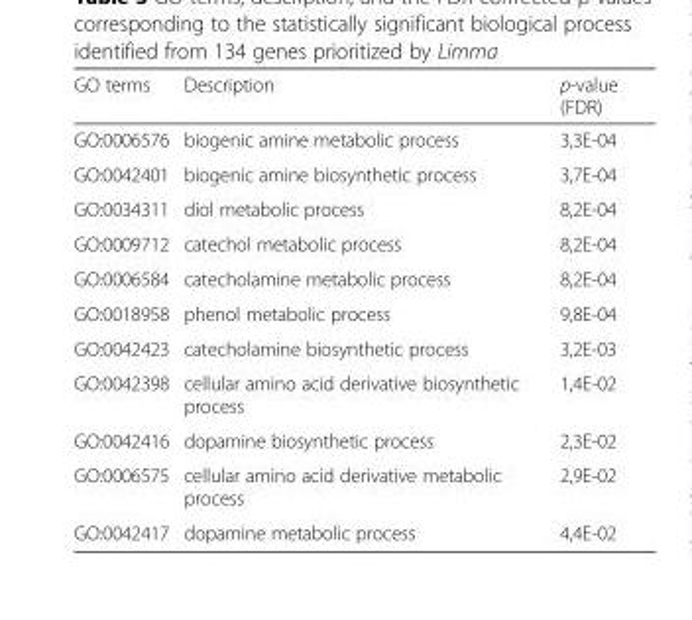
<table><thead><tr><td>GO terms</td><td>Description</td><td>p-value (FDR)</td></tr></thead><tbody><tr><td>GO:0006576</td><td>biogenic amine metabolic process</td><td>3,3E-04</td></tr><tr><td>GO:0042401</td><td>biogenic amine biosynthetic process</td><td>3,7E-04</td></tr><tr><td>GO:0034311</td><td>diol metabolic process</td><td>8,2E-04</td></tr><tr><td>GO:0009712</td><td>catechol metabolic process</td><td>8,2E-04</td></tr><tr><td>GO:0006584</td><td>catecholamine metabolic process</td><td>8,2E-04</td></tr><tr><td>GO:0018958</td><td>phenol metabolic process</td><td>9,8E-04</td></tr><tr><td>GO:0042423</td><td>catecholamine biosynthetic process</td><td>3,2E-03</td></tr><tr><td>GO:0042398</td><td>cellular amino acid derivative biosynthetic process</td><td>1,4E-02</td></tr><tr><td>GO:0042416</td><td>dopamine biosynthetic process</td><td>2,3E-02</td></tr><tr><td>GO:0006575</td><td>cellular amino acid derivative metabolic process</td><td>2,9E-02</td></tr><tr><td>GO:0042417</td><td>dopamine metabolic process</td><td>4,4E-02</td></tr></tbody></table>